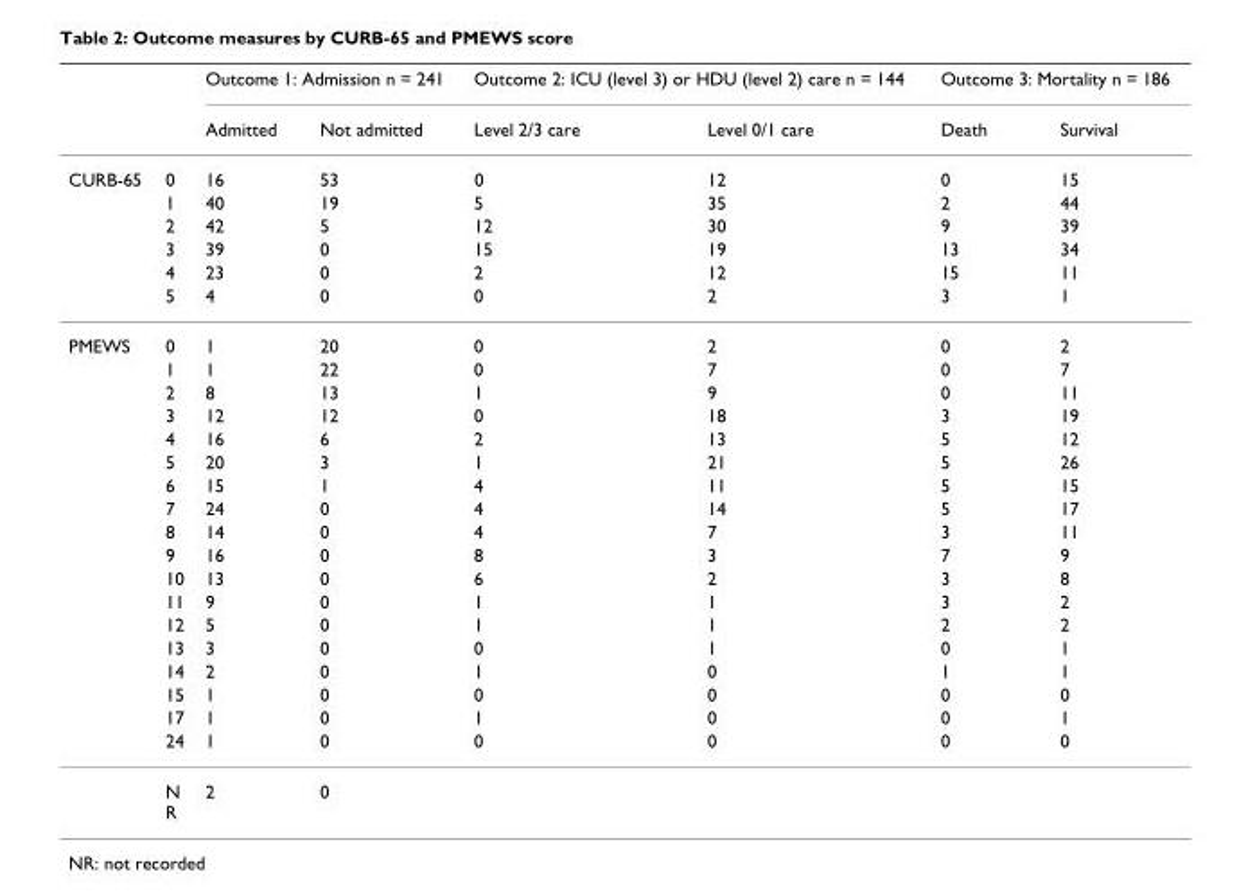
<table><thead><tr><td rowspan="2"></td><td rowspan="2"></td><td colspan="2">Outcome 1: Admission n = 241</td><td colspan="2">Outcome 2: ICU (level 3) or HDU (level 2) care n = 144</td><td colspan="2">Outcome 3: Mortality n = 186</td></tr><tr><td>Admitted</td><td>Not admitted</td><td>Level 2/3 care</td><td>Level 0/1 care</td><td>Death</td><td>Survival</td></tr></thead><tbody><tr><td rowspan="6">CURB-65</td><td>0</td><td>16</td><td>53</td><td>0</td><td>12</td><td>0</td><td>15</td></tr><tr><td>1</td><td>40</td><td>19</td><td>5</td><td>35</td><td>2</td><td>44</td></tr><tr><td>2</td><td>42</td><td>5</td><td>12</td><td>30</td><td>9</td><td>39</td></tr><tr><td>3</td><td>39</td><td>0</td><td>15</td><td>19</td><td>13</td><td>34</td></tr><tr><td>4</td><td>23</td><td>0</td><td>2</td><td>12</td><td>15</td><td>11</td></tr><tr><td>5</td><td>4</td><td>0</td><td>0</td><td>2</td><td>3</td><td>1</td></tr><tr><td rowspan="19">PMEWS</td><td>0</td><td>1</td><td>20</td><td>0</td><td>2</td><td>0</td><td>2</td></tr><tr><td>1</td><td>1</td><td>22</td><td>0</td><td>7</td><td>0</td><td>7</td></tr><tr><td>2</td><td>8</td><td>13</td><td>1</td><td>9</td><td>0</td><td>11</td></tr><tr><td>3</td><td>12</td><td>12</td><td>0</td><td>18</td><td>3</td><td>19</td></tr><tr><td>4</td><td>16</td><td>6</td><td>2</td><td>13</td><td>5</td><td>12</td></tr><tr><td>5</td><td>20</td><td>3</td><td>1</td><td>21</td><td>5</td><td>26</td></tr><tr><td>6</td><td>15</td><td>1</td><td>4</td><td>11</td><td>5</td><td>15</td></tr><tr><td>7</td><td>24</td><td>0</td><td>4</td><td>14</td><td>5</td><td>17</td></tr><tr><td>8</td><td>14</td><td>0</td><td>4</td><td>7</td><td>3</td><td>11</td></tr><tr><td>9</td><td>16</td><td>0</td><td>8</td><td>3</td><td>7</td><td>9</td></tr><tr><td>10</td><td>13</td><td>0</td><td>6</td><td>2</td><td>3</td><td>8</td></tr><tr><td>11</td><td>9</td><td>0</td><td>1</td><td>1</td><td>3</td><td>2</td></tr><tr><td>12</td><td>5</td><td>0</td><td>1</td><td>1</td><td>2</td><td>2</td></tr><tr><td>13</td><td>3</td><td>0</td><td>0</td><td>1</td><td>0</td><td>1</td></tr><tr><td>14</td><td>2</td><td>0</td><td>1</td><td>0</td><td>1</td><td>1</td></tr><tr><td>15</td><td>1</td><td>0</td><td>0</td><td>0</td><td>0</td><td>0</td></tr><tr><td>17</td><td>1</td><td>0</td><td>1</td><td>0</td><td>0</td><td>1</td></tr><tr><td>24</td><td>1</td><td>0</td><td>0</td><td>0</td><td>0</td><td>0</td></tr><tr><td>N R</td><td>2</td><td>0</td><td></td><td></td><td></td><td></td></tr></tbody></table>